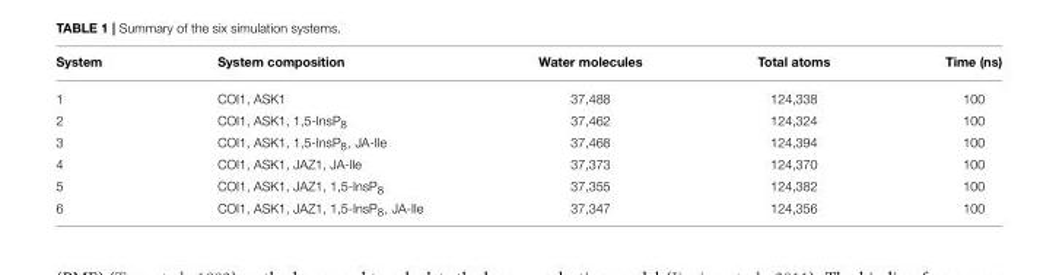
<table><thead><tr><td>System</td><td>System composition</td><td>Water molecules</td><td>Total atoms</td><td>Time (ns)</td></tr></thead><tbody><tr><td>1</td><td>COI1, ASK1</td><td>37,488</td><td>124,338</td><td>100</td></tr><tr><td>2</td><td>COI1, ASK1, 1,5-InsP<sub>8</sub></td><td>37,462</td><td>124,324</td><td>100</td></tr><tr><td>3</td><td>COI1, ASK1, 1,5-InsP<sub>8</sub>, JA-Ile</td><td>37,468</td><td>124,394</td><td>100</td></tr><tr><td>4</td><td>COI1, ASK1, JAZ1, JA-Ile</td><td>37,373</td><td>124,370</td><td>100</td></tr><tr><td>5</td><td>COI1, ASK1, JAZ1, 1,5-InsP<sub>8</sub></td><td>37,355</td><td>124,382</td><td>100</td></tr><tr><td>6</td><td>COI1, ASK1, JAZ1, 1,5-InsP<sub>8</sub>, JA-Ile</td><td>37,347</td><td>124,356</td><td>100</td></tr></tbody></table>